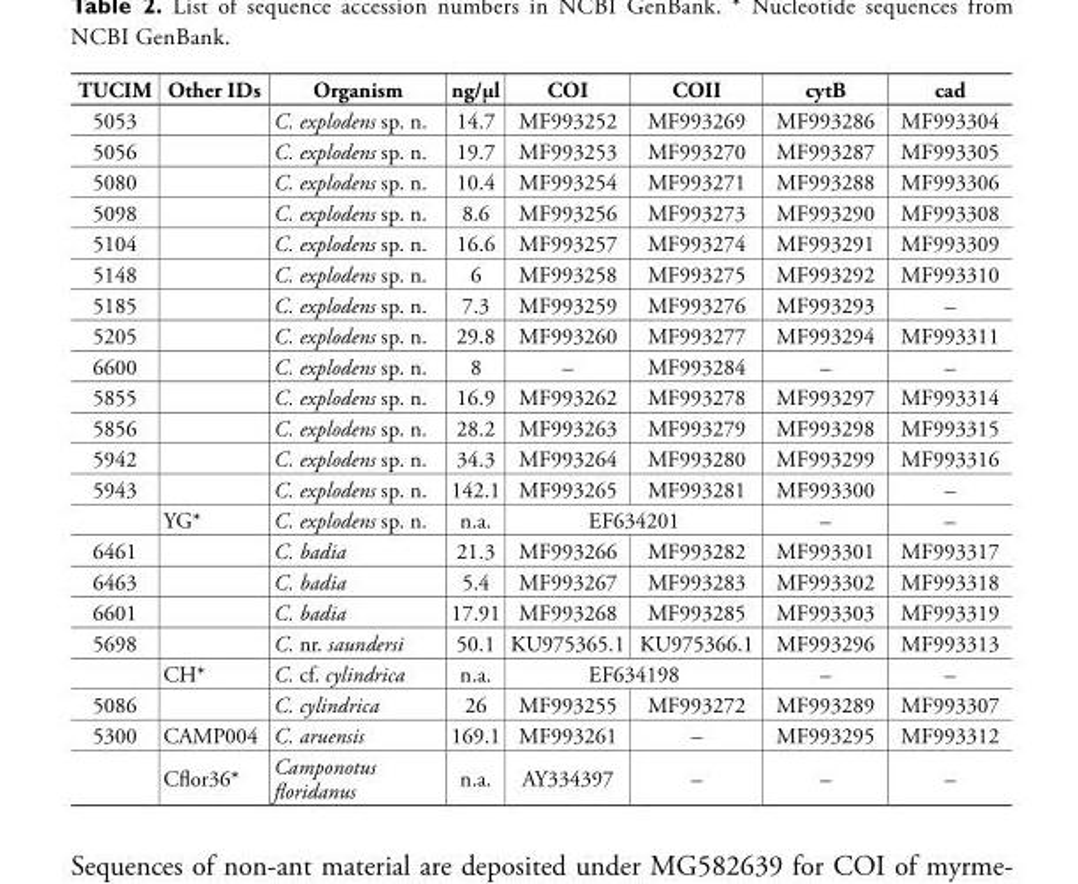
<table><thead><tr><td>TUCIM</td><td>Other IDs</td><td>Organism</td><td>ng/µl</td><td>COI</td><td>COII</td><td>cytB</td><td>cad</td></tr></thead><tbody><tr><td>5053</td><td></td><td>C. explodens sp. n.</td><td>14.7</td><td>MF993252</td><td>MF993269</td><td>MF993286</td><td>MF993304</td></tr><tr><td>5056</td><td></td><td>C. explodens sp. n.</td><td>19.7</td><td>MF993253</td><td>MF993270</td><td>MF993287</td><td>MF993305</td></tr><tr><td>5080</td><td></td><td>C. explodens sp. n.</td><td>10.4</td><td>MF993254</td><td>MF993271</td><td>MF993288</td><td>MF993306</td></tr><tr><td>5098</td><td></td><td>C. explodens sp. n.</td><td>8.6</td><td>MF993256</td><td>MF993273</td><td>MF993290</td><td>MF993308</td></tr><tr><td>5104</td><td></td><td>C. explodens sp. n.</td><td>16.6</td><td>MF993257</td><td>MF993274</td><td>MF993291</td><td>MF993309</td></tr><tr><td>5148</td><td></td><td>C. explodens sp. n.</td><td>6</td><td>MF993258</td><td>MF993275</td><td>MF993292</td><td>MF993310</td></tr><tr><td>5185</td><td></td><td>C. explodens sp. n.</td><td>7.3</td><td>MF993259</td><td>MF993276</td><td>MF993293</td><td>–</td></tr><tr><td>5205</td><td></td><td>C. explodens sp. n.</td><td>29.8</td><td>MF993260</td><td>MF993277</td><td>MF993294</td><td>MF993311</td></tr><tr><td>6600</td><td></td><td>C. explodens sp. n.</td><td>8</td><td>–</td><td>MF993284</td><td>–</td><td>–</td></tr><tr><td>5855</td><td></td><td>C. explodens sp. n.</td><td>16.9</td><td>MF993262</td><td>MF993278</td><td>MF993297</td><td>MF993314</td></tr><tr><td>5856</td><td></td><td>C. explodens sp. n.</td><td>28.2</td><td>MF993263</td><td>MF993279</td><td>MF993298</td><td>MF993315</td></tr><tr><td>5942</td><td></td><td>C. explodens sp. n.</td><td>34.3</td><td>MF993264</td><td>MF993280</td><td>MF993299</td><td>MF993316</td></tr><tr><td rowspan="2">5943</td><td></td><td>C. explodens sp. n.</td><td>142.1</td><td>MF993265</td><td>MF993281</td><td>MF993300</td><td>–</td></tr><tr><td>YG*</td><td>C. explodens sp. n.</td><td>n.a.</td><td colspan="2">EF634201</td><td>–</td><td>–</td></tr><tr><td>6461</td><td></td><td>C. badia</td><td>21.3</td><td>MF993266</td><td>MF993282</td><td>MF993301</td><td>MF993317</td></tr><tr><td>6463</td><td></td><td>C. badia</td><td>5.4</td><td>MF993267</td><td>MF993283</td><td>MF993302</td><td>MF993318</td></tr><tr><td>6601</td><td></td><td>C. badia</td><td>17.91</td><td>MF993268</td><td>MF993285</td><td>MF993303</td><td>MF993319</td></tr><tr><td rowspan="2">5698</td><td></td><td>C. nr. saundersi</td><td>50.1</td><td>KU975365.1</td><td>KU975366.1</td><td>MF993296</td><td>MF993313</td></tr><tr><td>CH*</td><td>C. cf. cylindrica</td><td>n.a.</td><td colspan="2">EF634198</td><td>–</td><td>–</td></tr><tr><td>5086</td><td></td><td>C. cylindrica</td><td>26</td><td>MF993255</td><td>MF993272</td><td>MF993289</td><td>MF993307</td></tr><tr><td rowspan="2">5300</td><td>CAMP004</td><td>C. aruensis</td><td>169.1</td><td>MF993261</td><td>–</td><td>MF993295</td><td>MF993312</td></tr><tr><td>Cflor36*</td><td>Camponotus floridanus</td><td>n.a.</td><td>AY334397</td><td>–</td><td>–</td><td>–</td></tr></tbody></table>